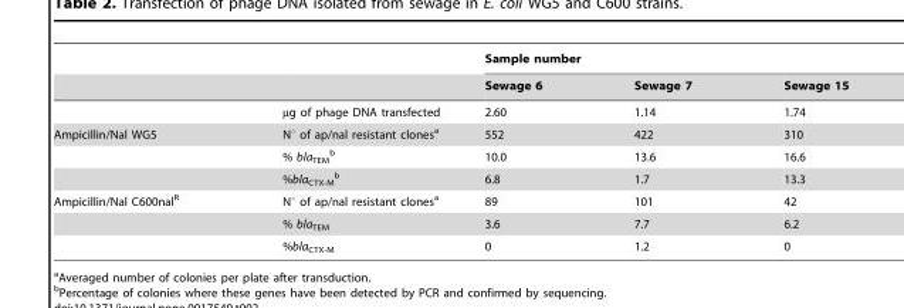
<table><thead><tr><td rowspan="2"></td><td rowspan="2"></td><td colspan="3">Sample number</td></tr><tr><td>Sewage 6</td><td>Sewage 7</td><td>Sewage 15</td></tr></thead><tbody><tr><td></td><td>µg of phage DNA transfected</td><td>2.60</td><td>1.14</td><td>1.74</td></tr><tr><td rowspan="3">Ampicillin/Nal WG5</td><td>N° of ap/nal resistant clones<sup>a</sup></td><td>552</td><td>422</td><td>310</td></tr><tr><td>% bla<sub>TEM</sub> b</td><td>10.0</td><td>13.6</td><td>16.6</td></tr><tr><td>%bla<sub>CTX-M</sub> b</td><td>6.8</td><td>1.7</td><td>13.3</td></tr><tr><td rowspan="3">Ampicillin/Nal C600nal<sup>R</sup></td><td>N° of ap/nal resistant clones<sup>a</sup></td><td>89</td><td>101</td><td>42</td></tr><tr><td>% bla<sub>TEM</sub></td><td>3.6</td><td>7.7</td><td>6.2</td></tr><tr><td>%bla<sub>CTX-M</sub></td><td>0</td><td>1.2</td><td>0</td></tr></tbody></table>